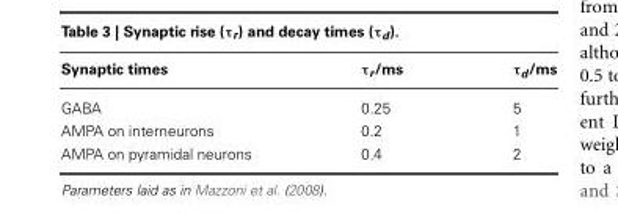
<table><thead><tr><td>Synaptic times</td><td>τ<sub>r</sub>/ms</td><td>τ<sub>d</sub>/ms</td></tr></thead><tbody><tr><td>GABA</td><td>0.25</td><td>5</td></tr><tr><td>AMPA on interneurons</td><td>0.2</td><td>1</td></tr><tr><td>AMPA on pyramidal neurons</td><td>0.4</td><td>2</td></tr></tbody></table>